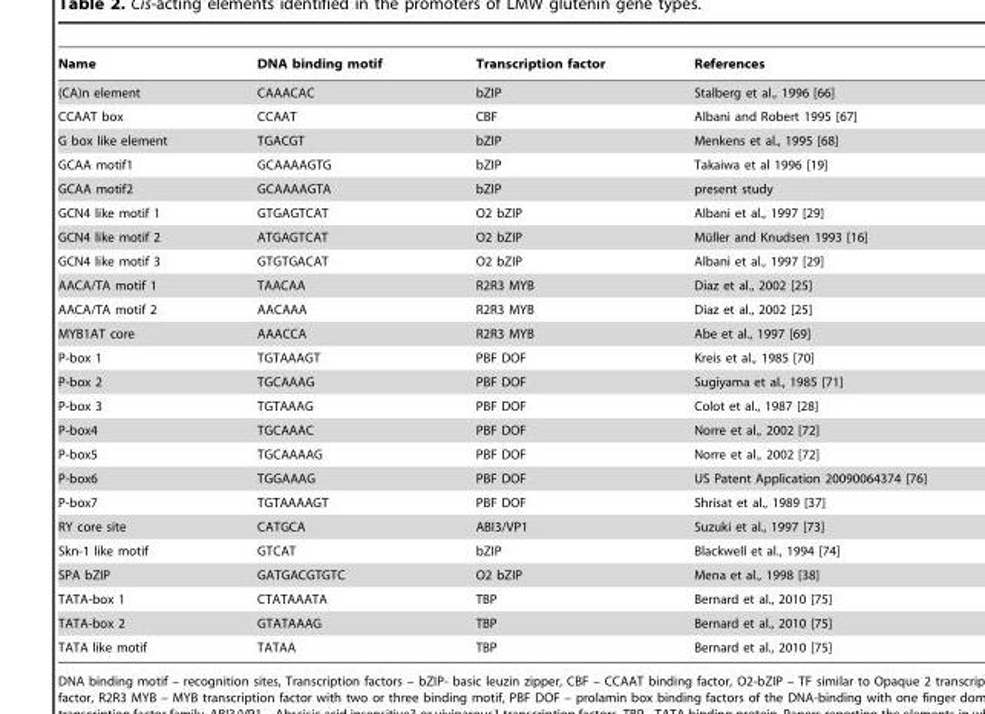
<table><thead><tr><td>Name</td><td>DNA binding motif</td><td>Transcription factor</td><td>References</td></tr></thead><tbody><tr><td>(CA)n element</td><td>CAAACAC</td><td>bZIP</td><td>Stalberg et al., 1996 [66]</td></tr><tr><td>CCAAT box</td><td>CCAAT</td><td>CBF</td><td>Albani and Robert 1995 [67]</td></tr><tr><td>G box like element</td><td>TGACGT</td><td>bZIP</td><td>Menkens et al., 1995 [68]</td></tr><tr><td>GCAA motif1</td><td>GCAAAAGTG</td><td>bZIP</td><td>Takaiwa et al 1996 [19]</td></tr><tr><td>GCAA motif2</td><td>GCAAAAGTA</td><td>bZIP</td><td>present study</td></tr><tr><td>GCN4 like motif 1</td><td>GTGAGTCAT</td><td>O2 bZIP</td><td>Albani et al., 1997 [29]</td></tr><tr><td>GCN4 like motif 2</td><td>ATGAGTCAT</td><td>O2 bZIP</td><td>Mu¨ller and Knudsen 1993 [16]</td></tr><tr><td>GCN4 like motif 3</td><td>GTGTGACAT</td><td>O2 bZIP</td><td>Albani et al., 1997 [29]</td></tr><tr><td>AACA/TA motif 1</td><td>TAACAA</td><td>R2R3 MYB</td><td>Diaz et al., 2002 [25]</td></tr><tr><td>AACA/TA motif 2</td><td>AACAAA</td><td>R2R3 MYB</td><td>Diaz et al., 2002 [25]</td></tr><tr><td>MYB1AT core</td><td>AAACCA</td><td>R2R3 MYB</td><td>Abe et al., 1997 [69]</td></tr><tr><td>P-box 1</td><td>TGTAAAGT</td><td>PBF DOF</td><td>Kreis et al., 1985 [70]</td></tr><tr><td>P-box 2</td><td>TGCAAAG</td><td>PBF DOF</td><td>Sugiyama et al., 1985 [71]</td></tr><tr><td>P-box 3</td><td>TGTAAAG</td><td>PBF DOF</td><td>Colot et al., 1987 [28]</td></tr><tr><td>P-box4</td><td>TGCAAAC</td><td>PBF DOF</td><td>Norre et al., 2002 [72]</td></tr><tr><td>P-box5</td><td>TGCAAAAG</td><td>PBF DOF</td><td>Norre et al., 2002 [72]</td></tr><tr><td>P-box6</td><td>TGGAAAG</td><td>PBF DOF</td><td>US Patent Application 20090064374 [76]</td></tr><tr><td>P-box7</td><td>TGTAAAAGT</td><td>PBF DOF</td><td>Shrisat et al., 1989 [37]</td></tr><tr><td>RY core site</td><td>CATGCA</td><td>ABI3/VP1</td><td>Suzuki et al., 1997 [73]</td></tr><tr><td>Skn-1 like motif</td><td>GTCAT</td><td>bZIP</td><td>Blackwell et al., 1994 [74]</td></tr><tr><td>SPA bZIP</td><td>GATGACGTGTC</td><td>O2 bZIP</td><td>Mena et al., 1998 [38]</td></tr><tr><td>TATA-box 1</td><td>CTATAAATA</td><td>TBP</td><td>Bernard et al., 2010 [75]</td></tr><tr><td>TATA-box 2</td><td>GTATAAAG</td><td>TBP</td><td>Bernard et al., 2010 [75]</td></tr><tr><td>TATA like motif</td><td>TATAA</td><td>TBP</td><td>Bernard et al., 2010 [75]</td></tr></tbody></table>